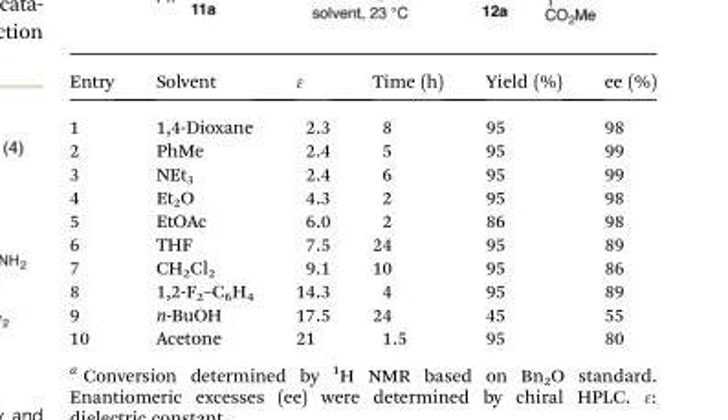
<table><thead><tr><td>Entry</td><td>Solvent</td><td>ε</td><td>Time (h)</td><td>Yield (%)</td><td>ee (%)</td></tr></thead><tbody><tr><td>1</td><td>1,4-Dioxane</td><td>2.3</td><td>8</td><td>95</td><td>98</td></tr><tr><td>2</td><td>PhMe</td><td>2.4</td><td>5</td><td>95</td><td>99</td></tr><tr><td>3</td><td>NEt<sub>3</sub></td><td>2.4</td><td>6</td><td>95</td><td>99</td></tr><tr><td>4</td><td>Et<sub>2</sub>O</td><td>4.3</td><td>2</td><td>95</td><td>98</td></tr><tr><td>5</td><td>EtOAc</td><td>6.0</td><td>2</td><td>86</td><td>98</td></tr><tr><td>6</td><td>THF</td><td>7.5</td><td>24</td><td>95</td><td>89</td></tr><tr><td>7</td><td>CH<sub>2</sub>Cl<sub>2</sub></td><td>9.1</td><td>10</td><td>95</td><td>86</td></tr><tr><td>8</td><td>1,2-F<sub>2</sub>–C<sub>6</sub>H<sub>4</sub></td><td>14.3</td><td>4</td><td>95</td><td>89</td></tr><tr><td>9</td><td>n-BuOH</td><td>17.5</td><td>24</td><td>45</td><td>55</td></tr><tr><td>10</td><td>Acetone</td><td>21</td><td>1.5</td><td>95</td><td>80</td></tr></tbody></table>